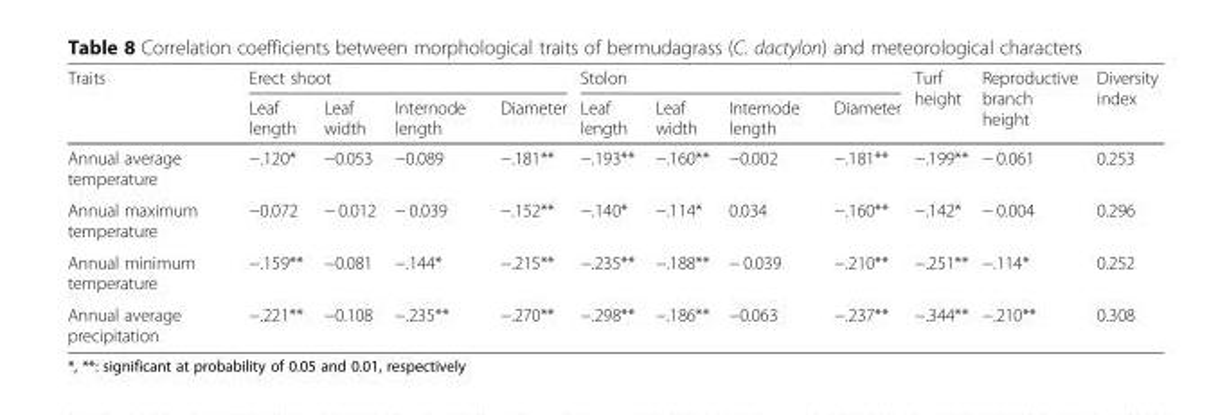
<table><thead><tr><td rowspan="2">Traits</td><td colspan="4">Erect shoot</td><td colspan="4">Stolon</td><td rowspan="2">Turf height</td><td rowspan="2">Reproductive branch height</td><td rowspan="2">Diversity index</td></tr><tr><td>Leaf length</td><td>Leaf width</td><td>Internode length</td><td>Diameter</td><td>Leaf length</td><td>Leaf width</td><td>Internode length</td><td>Diameter</td></tr></thead><tbody><tr><td>Annual average temperature</td><td>−.120*</td><td>−0.053</td><td>−0.089</td><td>−.181**</td><td>−.193**</td><td>−.160**</td><td>−0.002</td><td>−.181**</td><td>−.199**</td><td>− 0.061</td><td>0.253</td></tr><tr><td>Annual maximum temperature</td><td>−0.072</td><td>− 0.012</td><td>− 0.039</td><td>−.152**</td><td>−.140*</td><td>−.114*</td><td>0.034</td><td>−.160**</td><td>−.142*</td><td>− 0.004</td><td>0.296</td></tr><tr><td>Annual minimum temperature</td><td>−.159**</td><td>−0.081</td><td>−.144*</td><td>−.215**</td><td>−.235**</td><td>−.188**</td><td>− 0.039</td><td>−.210**</td><td>−.251**</td><td>−.114*</td><td>0.252</td></tr><tr><td>Annual average precipitation</td><td>−.221**</td><td>−0.108</td><td>−.235**</td><td>−.270**</td><td>−.298**</td><td>−.186**</td><td>−0.063</td><td>−.237**</td><td>−.344**</td><td>−.210**</td><td>0.308</td></tr></tbody></table>